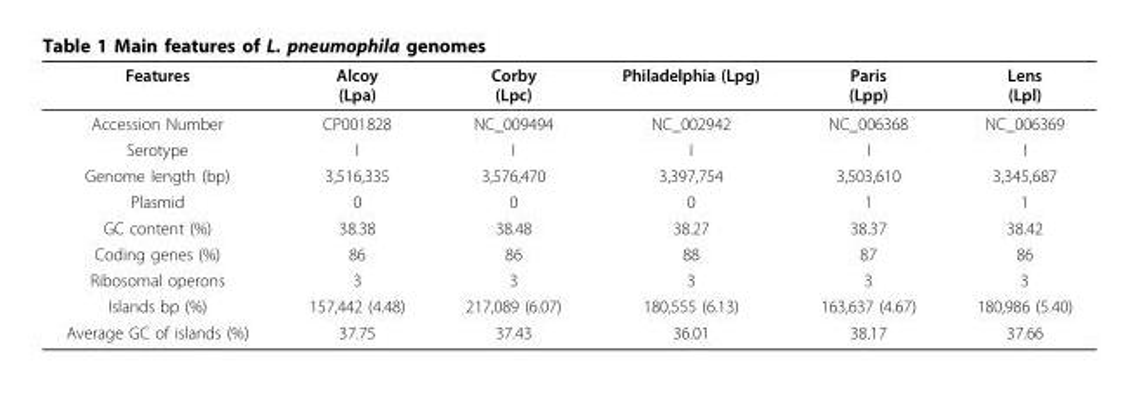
<table><thead><tr><td>Features</td><td>Alcoy (Lpa)</td><td>Corby (Lpc)</td><td>Philadelphia (Lpg)</td><td>Paris (Lpp)</td><td>Lens (Lpl)</td></tr></thead><tbody><tr><td>Accession Number</td><td>CP001828</td><td>NC_009494</td><td>NC_002942</td><td>NC_006368</td><td>NC_006369</td></tr><tr><td>Serotype</td><td>I</td><td>I</td><td>I</td><td>I</td><td>I</td></tr><tr><td>Genome length (bp)</td><td>3,516,335</td><td>3,576,470</td><td>3,397,754</td><td>3,503,610</td><td>3,345,687</td></tr><tr><td>Plasmid</td><td>0</td><td>0</td><td>0</td><td>1</td><td>1</td></tr><tr><td>GC content (%)</td><td>38.38</td><td>38.48</td><td>38.27</td><td>38.37</td><td>38.42</td></tr><tr><td>Coding genes (%)</td><td>86</td><td>86</td><td>88</td><td>87</td><td>86</td></tr><tr><td>Ribosomal operons</td><td>3</td><td>3</td><td>3</td><td>3</td><td>3</td></tr><tr><td>Islands bp (%)</td><td>157,442 (4.48)</td><td>217,089 (6.07)</td><td>180,555 (6.13)</td><td>163,637 (4.67)</td><td>180,986 (5.40)</td></tr><tr><td>Average GC of islands (%)</td><td>37.75</td><td>37.43</td><td>36.01</td><td>38.17</td><td>37.66</td></tr></tbody></table>